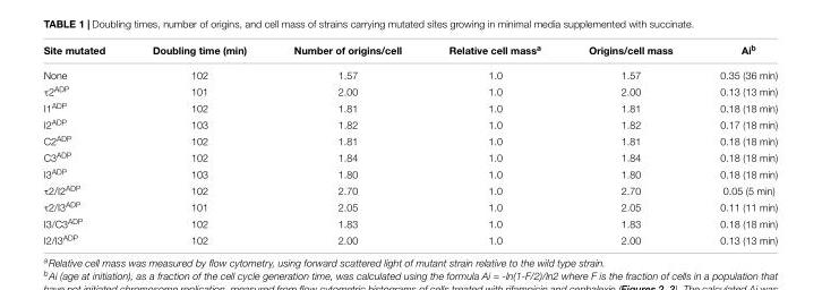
<table><thead><tr><td>Site mutated</td><td>Doubling time (min)</td><td>Number of origins/cell</td><td>Relative cell mass<sup>a</sup></td><td>Origins/cell mass</td><td>Ai<sup>b</sup></td></tr></thead><tbody><tr><td>None</td><td>102</td><td>1.57</td><td>1.0</td><td>1.57</td><td>0.35 (36 min)</td></tr><tr><td>τ2<sup>ADP</sup></td><td>101</td><td>2.00</td><td>1.0</td><td>2.00</td><td>0.13 (13 min)</td></tr><tr><td>I1<sup>ADP</sup></td><td>102</td><td>1.81</td><td>1.0</td><td>1.81</td><td>0.18 (18 min)</td></tr><tr><td>I2<sup>ADP</sup></td><td>103</td><td>1.82</td><td>1.0</td><td>1.82</td><td>0.17 (18 min)</td></tr><tr><td>C2<sup>ADP</sup></td><td>102</td><td>1.81</td><td>1.0</td><td>1.81</td><td>0.18 (18 min)</td></tr><tr><td>C3<sup>ADP</sup></td><td>102</td><td>1.84</td><td>1.0</td><td>1.84</td><td>0.18 (18 min)</td></tr><tr><td>I3<sup>ADP</sup></td><td>103</td><td>1.80</td><td>1.0</td><td>1.80</td><td>0.18 (18 min)</td></tr><tr><td>τ2/I2<sup>ADP</sup></td><td>102</td><td>2.70</td><td>1.0</td><td>2.70</td><td>0.05 (5 min)</td></tr><tr><td>τ2/I3<sup>ADP</sup></td><td>101</td><td>2.05</td><td>1.0</td><td>2.05</td><td>0.11 (11 min)</td></tr><tr><td>I3/C3<sup>ADP</sup></td><td>102</td><td>1.83</td><td>1.0</td><td>1.83</td><td>0.18 (18 min)</td></tr><tr><td>I2/I3<sup>ADP</sup></td><td>102</td><td>2.00</td><td>1.0</td><td>2.00</td><td>0.13 (13 min)</td></tr></tbody></table>